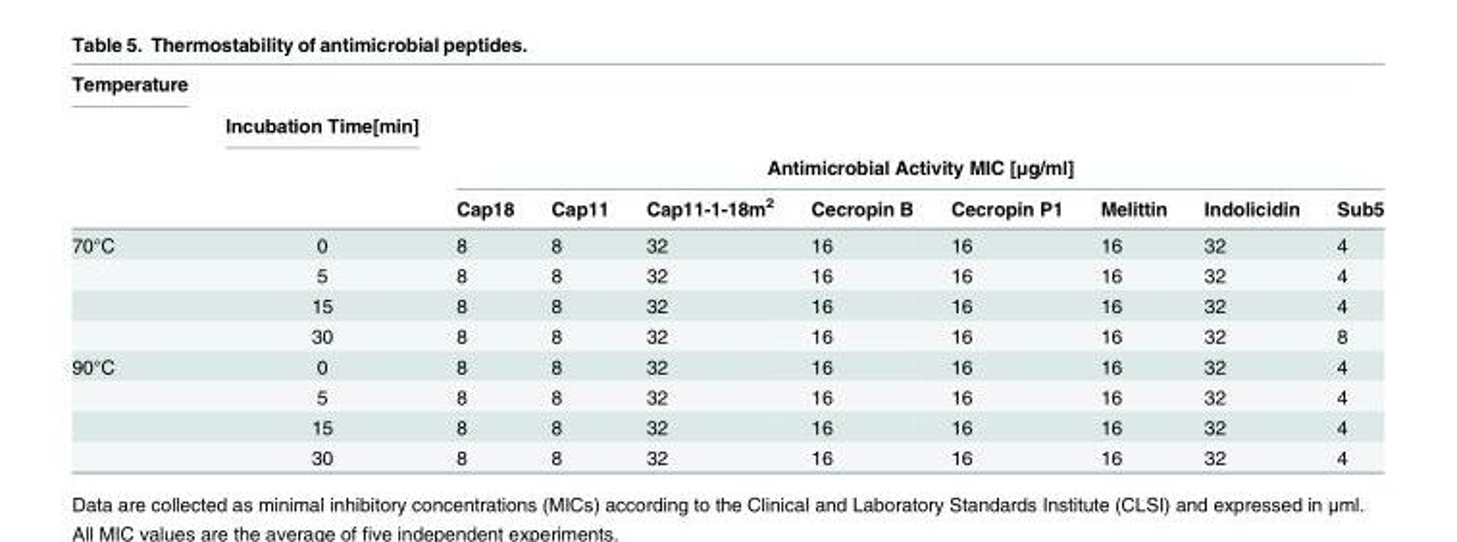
<table><thead><tr><td rowspan="4">Temperature</td><td rowspan="4">Incubation Time[min]</td><td rowspan="2"></td><td rowspan="2"></td><td rowspan="2"></td><td rowspan="2"></td><td rowspan="2"></td><td rowspan="2"></td><td rowspan="2"></td><td rowspan="2"></td></tr><tr></tr><tr><td colspan="8">Antimicrobial Activity MIC [μg/ml]</td></tr><tr><td>Cap18</td><td>Cap11</td><td>Cap11-1-18m<sup>2</sup></td><td>Cecropin B</td><td>Cecropin P1</td><td>Melittin</td><td>Indolicidin</td><td>Sub5</td></tr></thead><tbody><tr><td rowspan="4">70°C</td><td>0</td><td>8</td><td>8</td><td>32</td><td>16</td><td>16</td><td>16</td><td>32</td><td>4</td></tr><tr><td>5</td><td>8</td><td>8</td><td>32</td><td>16</td><td>16</td><td>16</td><td>32</td><td>4</td></tr><tr><td>15</td><td>8</td><td>8</td><td>32</td><td>16</td><td>16</td><td>16</td><td>32</td><td>4</td></tr><tr><td>30</td><td>8</td><td>8</td><td>32</td><td>16</td><td>16</td><td>16</td><td>32</td><td>8</td></tr><tr><td rowspan="4">90°C</td><td>0</td><td>8</td><td>8</td><td>32</td><td>16</td><td>16</td><td>16</td><td>32</td><td>4</td></tr><tr><td>5</td><td>8</td><td>8</td><td>32</td><td>16</td><td>16</td><td>16</td><td>32</td><td>4</td></tr><tr><td>15</td><td>8</td><td>8</td><td>32</td><td>16</td><td>16</td><td>16</td><td>32</td><td>4</td></tr><tr><td>30</td><td>8</td><td>8</td><td>32</td><td>16</td><td>16</td><td>16</td><td>32</td><td>4</td></tr></tbody></table>